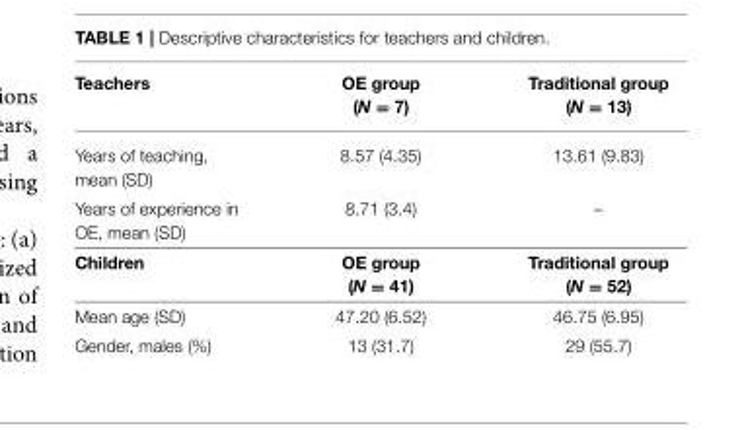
<table><thead><tr><td>Teachers</td><td>OE group (N = 7)</td><td>Traditional group (N = 13)</td></tr></thead><tbody><tr><td>Years of teaching, mean (SD)</td><td>8.57 (4.35)</td><td>13.61 (9.83)</td></tr><tr><td>Years of experience in OE, mean (SD)</td><td>8.71 (3.4)</td><td>–</td></tr><tr><td>Children</td><td>OE group (N = 41)</td><td>Traditional group (N = 52)</td></tr><tr><td>Mean age (SD)</td><td>47.20 (6.52)</td><td>46.75 (6.95)</td></tr><tr><td>Gender, males (%)</td><td>13 (31.7)</td><td>29 (55.7)</td></tr></tbody></table>